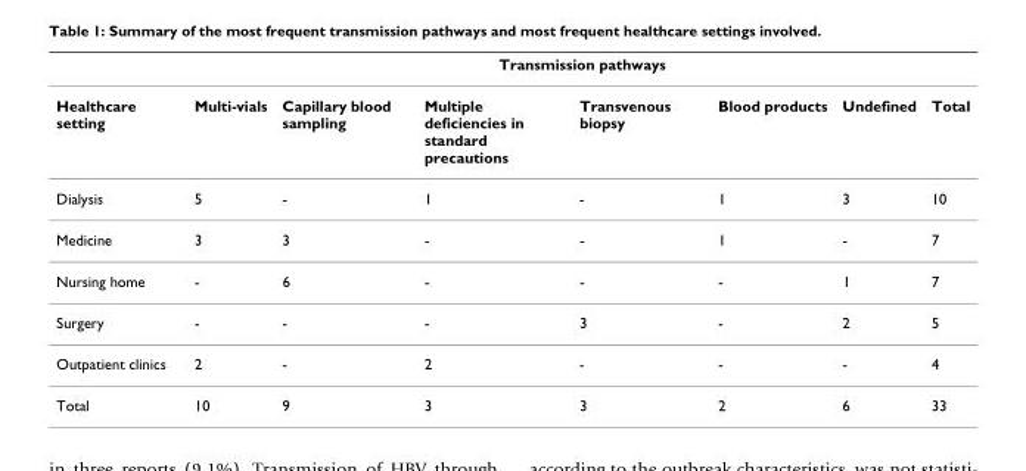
<table><thead><tr><td rowspan="2">Healthcare setting</td><td colspan="7">Transmission pathways</td></tr><tr><td>Multi-vials</td><td>Capillary blood sampling</td><td>Multiple deficiencies in standard precautions</td><td>Transvenous biopsy</td><td>Blood products</td><td>Undefined</td><td>Total</td></tr></thead><tbody><tr><td>Dialysis</td><td>5</td><td>-</td><td>1</td><td>-</td><td>1</td><td>3</td><td>10</td></tr><tr><td>Medicine</td><td>3</td><td>3</td><td>-</td><td>-</td><td>1</td><td>-</td><td>7</td></tr><tr><td>Nursing home</td><td>-</td><td>6</td><td>-</td><td>-</td><td>-</td><td>1</td><td>7</td></tr><tr><td>Surgery</td><td>-</td><td>-</td><td>-</td><td>3</td><td>-</td><td>2</td><td>5</td></tr><tr><td>Outpatient clinics</td><td>2</td><td>-</td><td>2</td><td>-</td><td>-</td><td>-</td><td>4</td></tr><tr><td>Total</td><td>10</td><td>9</td><td>3</td><td>3</td><td>2</td><td>6</td><td>33</td></tr></tbody></table>